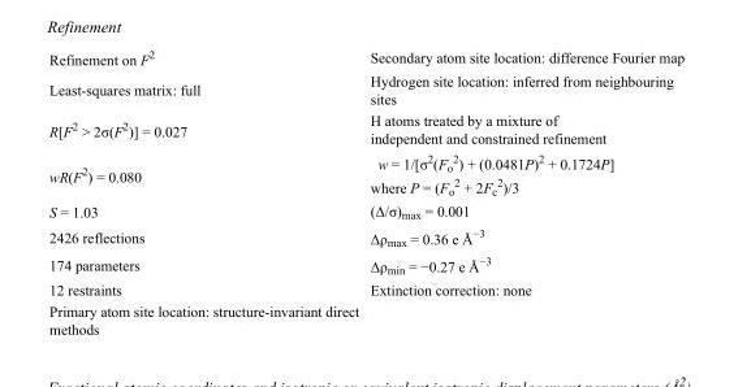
<table><tbody><tr><td>Refinement on F<sup>2</sup></td><td>Secondary atom site location: difference Fourier map</td></tr><tr><td>Least-squares matrix: full</td><td>Hydrogen site location: inferred from neighbouring sites</td></tr><tr><td>R[F<sup>2</sup> &gt; 2σ(F<sup>2</sup>)] = 0.027</td><td>H atoms treated by a mixture of independent and constrained refinement</td></tr><tr><td>wR(F<sup>2</sup>) = 0.080</td><td>w = 1/[σ<sup>2</sup>(F<sub>o</sub> <sup>2</sup>) + (0.0481P)<sup>2</sup> + 0.1724P] where P = (F<sub>o</sub> <sup>2</sup> + 2F<sub>c</sub> <sup>2</sup>)/3</td></tr><tr><td>S = 1.03</td><td>(Δ/σ)<sub>max</sub> = 0.001</td></tr><tr><td>2426 reflections</td><td>Δρ<sub>max</sub> = 0.36 e Å<sup>−3</sup></td></tr><tr><td>174 parameters</td><td>Δρ<sub>min</sub> = −0.27 e Å<sup>−3</sup></td></tr><tr><td>12 restraints</td><td>Extinction correction: none</td></tr><tr><td>Primary atom site location: structure-invariant direct methods</td><td></td></tr></tbody></table>